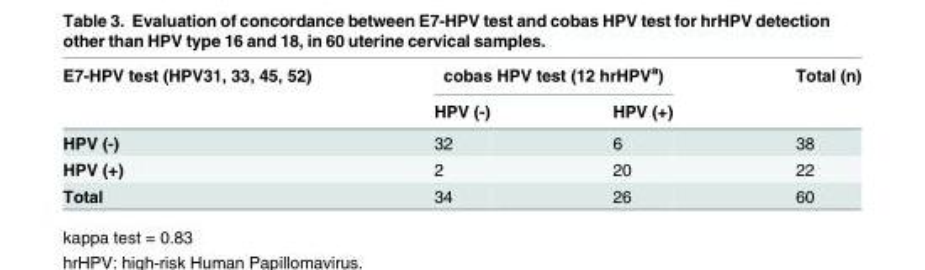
<table><thead><tr><td rowspan="2">E7-HPV test (HPV31, 33, 45, 52)</td><td colspan="2">cobas HPV test (12 hrHPV<sup>a</sup>)</td><td rowspan="2">Total (n)</td></tr><tr><td>HPV (-)</td><td>HPV (+)</td></tr></thead><tbody><tr><td>HPV (-)</td><td>32</td><td>6</td><td>38</td></tr><tr><td>HPV (+)</td><td>2</td><td>20</td><td>22</td></tr><tr><td>Total</td><td>34</td><td>26</td><td>60</td></tr></tbody></table>